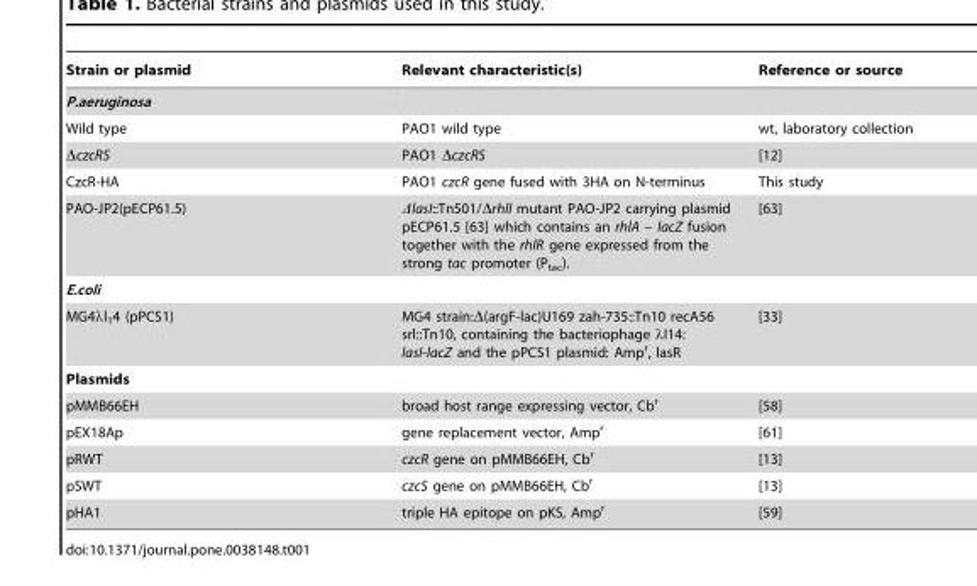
<table><thead><tr><td>Strain or plasmid</td><td>Relevant characteristic(s)</td><td>Reference or source</td></tr></thead><tbody><tr><td colspan="3">P.aeruginosa</td></tr><tr><td>Wild type</td><td>PAO1 wild type</td><td>wt, laboratory collection</td></tr><tr><td>ΔczcRS</td><td>PAO1 ΔczcRS</td><td>[12]</td></tr><tr><td>CzcR-HA</td><td>PAO1 czcR gene fused with 3HA on N-terminus</td><td>This study</td></tr><tr><td>PAO-JP2(pECP61.5)</td><td>ΔlasI::Tn501/ΔrhlI mutant PAO-JP2 carrying plasmid pECP61.5 [63] which contains an rhlA – lacZ fusion together with the rhlR gene expressed from the strong tac promoter (P<sub>tac</sub>).</td><td>[63]</td></tr><tr><td colspan="3">E.coli</td></tr><tr><td>MG4λl<sub>1</sub>4 (pPCS1)</td><td>MG4 strain:Δ(argF-lac)U169 zah-735::Tn10 recA56 srl::Tn10, containing the bacteriophage λI14: lasI-lacZ and the pPCS1 plasmid: Amp<sup>r</sup>, lasR</td><td>[33]</td></tr><tr><td colspan="3">Plasmids</td></tr><tr><td>pMMB66EH</td><td>broad host range expressing vector, Cb<sup>r</sup></td><td>[58]</td></tr><tr><td>pEX18Ap</td><td>gene replacement vector, Amp<sup>r</sup></td><td>[61]</td></tr><tr><td>pRWT</td><td>czcR gene on pMMB66EH, Cb<sup>r</sup></td><td>[13]</td></tr><tr><td>pSWT</td><td>czcS gene on pMMB66EH, Cb<sup>r</sup></td><td>[13]</td></tr><tr><td>pHA1</td><td>triple HA epitope on pKS, Amp<sup>r</sup></td><td>[59]</td></tr></tbody></table>